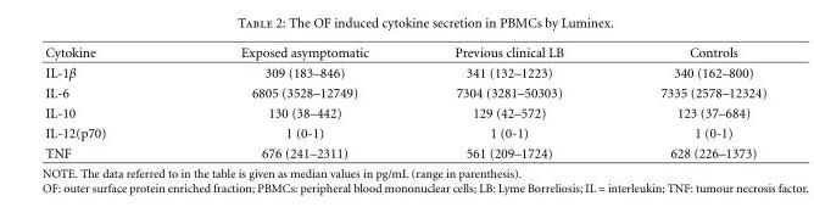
<table><thead><tr><td>Cytokine</td><td>Exposed asymptomatic</td><td>Previous clinical LB</td><td>Controls</td></tr></thead><tbody><tr><td>IL-1β</td><td>309 (183–846)</td><td>341 (132–1223)</td><td>340 (162–800)</td></tr><tr><td>IL-6</td><td>6805 (3528–12749)</td><td>7304 (3281–50303)</td><td>7335 (2578–12324)</td></tr><tr><td>IL-10</td><td>130 (38–442)</td><td>129 (42–572)</td><td>123 (37–684)</td></tr><tr><td>IL-12(p70)</td><td>1 (0-1)</td><td>1 (0-1)</td><td>1 (0-1)</td></tr><tr><td>TNF</td><td>676 (241–2311)</td><td>561 (209–1724)</td><td>628 (226–1373)</td></tr></tbody></table>